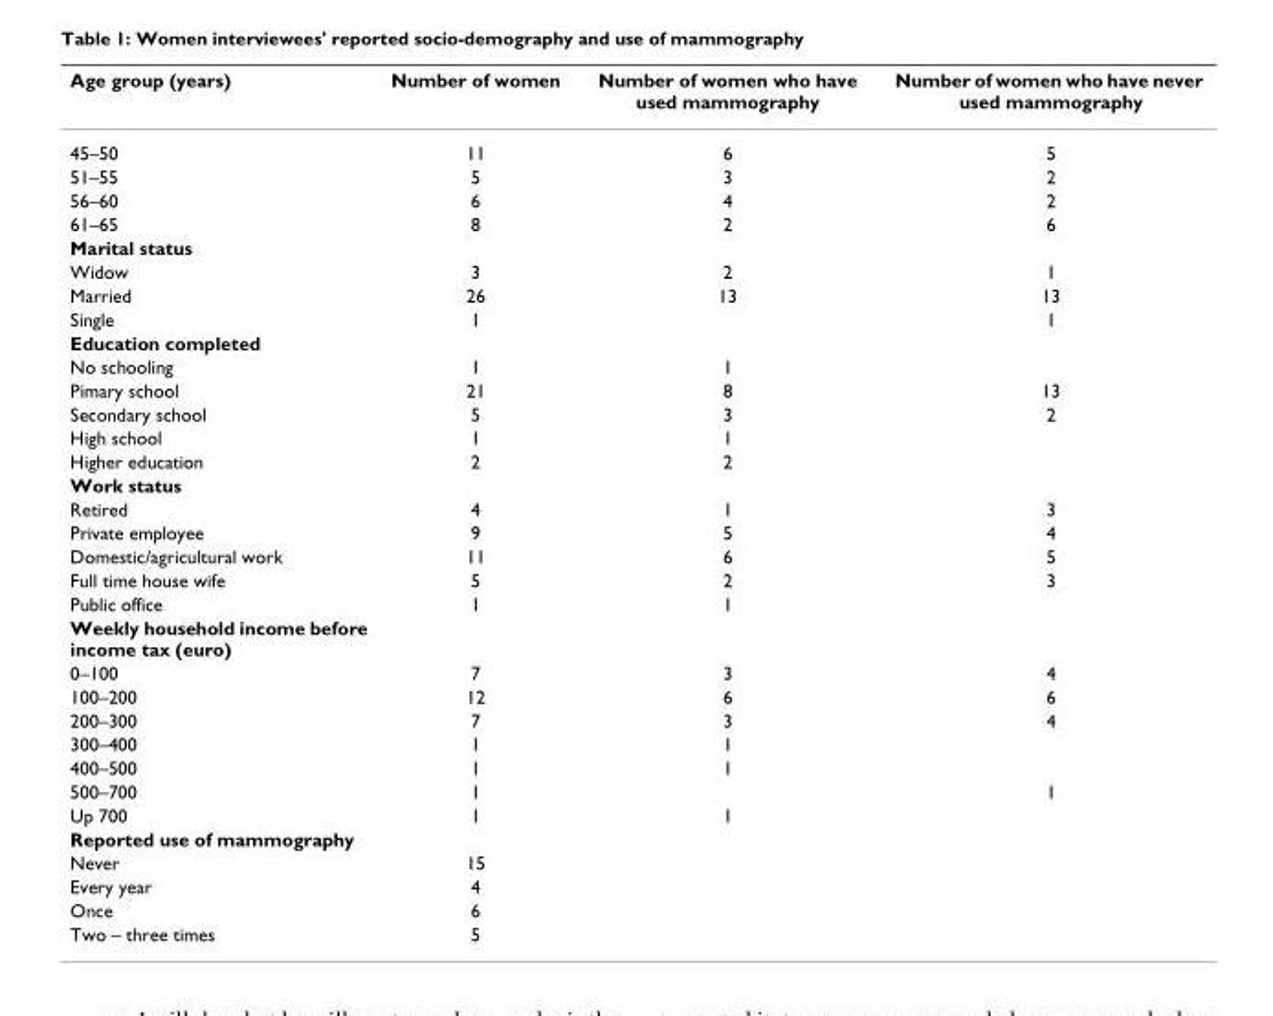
<table><thead><tr><td>Age group (years)</td><td>Number of women</td><td>Number of women who have used mammography</td><td>Number of women who have never used mammography</td></tr></thead><tbody><tr><td>45–50</td><td>11</td><td>6</td><td>5</td></tr><tr><td>51–55</td><td>5</td><td>3</td><td>2</td></tr><tr><td>56–60</td><td>6</td><td>4</td><td>2</td></tr><tr><td>61–65</td><td>8</td><td>2</td><td>6</td></tr><tr><td colspan="4">Marital status</td></tr><tr><td>Widow</td><td>3</td><td>2</td><td>1</td></tr><tr><td>Married</td><td>26</td><td>13</td><td>13</td></tr><tr><td>Single</td><td>1</td><td></td><td>1</td></tr><tr><td colspan="4">Education completed</td></tr><tr><td>No schooling</td><td>1</td><td>1</td><td></td></tr><tr><td>Pimary school</td><td>21</td><td>8</td><td>13</td></tr><tr><td>Secondary school</td><td>5</td><td>3</td><td>2</td></tr><tr><td>High school</td><td>1</td><td>1</td><td></td></tr><tr><td>Higher education</td><td>2</td><td>2</td><td></td></tr><tr><td colspan="4">Work status</td></tr><tr><td>Retired</td><td>4</td><td>1</td><td>3</td></tr><tr><td>Private employee</td><td>9</td><td>5</td><td>4</td></tr><tr><td>Domestic/agricultural work</td><td>11</td><td>6</td><td>5</td></tr><tr><td>Full time house wife</td><td>5</td><td>2</td><td>3</td></tr><tr><td>Public office</td><td>1</td><td>1</td><td></td></tr><tr><td colspan="4">Weekly household income before income tax (euro)</td></tr><tr><td>0–100</td><td>7</td><td>3</td><td>4</td></tr><tr><td>100–200</td><td>12</td><td>6</td><td>6</td></tr><tr><td>200–300</td><td>7</td><td>3</td><td>4</td></tr><tr><td>300–400</td><td>1</td><td>1</td><td></td></tr><tr><td>400–500</td><td>1</td><td>1</td><td></td></tr><tr><td>500–700</td><td>1</td><td></td><td>1</td></tr><tr><td>Up 700</td><td>1</td><td>1</td><td></td></tr><tr><td colspan="4">Reported use of mammography</td></tr><tr><td>Never</td><td>15</td><td></td><td></td></tr><tr><td>Every year</td><td>4</td><td></td><td></td></tr><tr><td>Once</td><td>6</td><td></td><td></td></tr><tr><td>Two – three times</td><td>5</td><td></td><td></td></tr></tbody></table>